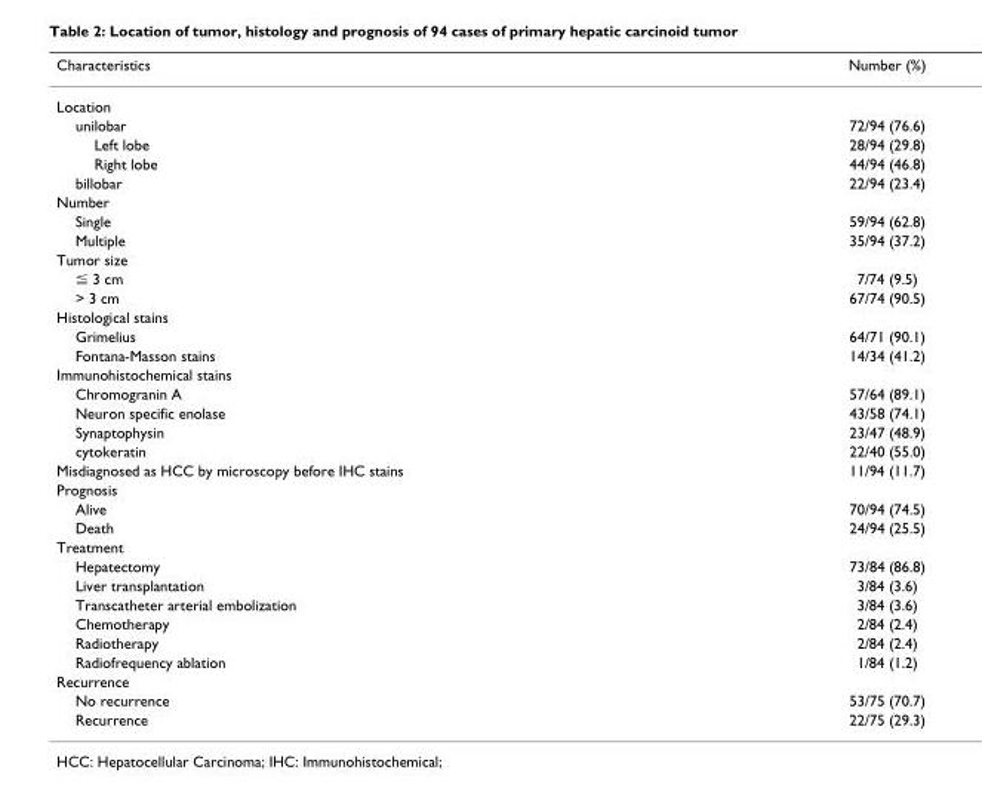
<table><thead><tr><td>Characteristics</td><td>Number (%)</td></tr></thead><tbody><tr><td colspan="2">Location</td></tr><tr><td>unilobar</td><td>72/94 (76.6)</td></tr><tr><td>Left lobe</td><td>28/94 (29.8)</td></tr><tr><td>Right lobe</td><td>44/94 (46.8)</td></tr><tr><td>billobar</td><td>22/94 (23.4)</td></tr><tr><td colspan="2">Number</td></tr><tr><td>Single</td><td>59/94 (62.8)</td></tr><tr><td>Multiple</td><td>35/94 (37.2)</td></tr><tr><td colspan="2">Tumor size</td></tr><tr><td>≦ 3 cm</td><td>7/74 (9.5)</td></tr><tr><td>&gt; 3 cm</td><td>67/74 (90.5)</td></tr><tr><td colspan="2">Histological stains</td></tr><tr><td>Grimelius</td><td>64/71 (90.1)</td></tr><tr><td>Fontana-Masson stains</td><td>14/34 (41.2)</td></tr><tr><td colspan="2">Immunohistochemical stains</td></tr><tr><td>Chromogranin A</td><td>57/64 (89.1)</td></tr><tr><td>Neuron specific enolase</td><td>43/58 (74.1)</td></tr><tr><td>Synaptophysin</td><td>23/47 (48.9)</td></tr><tr><td>cytokeratin</td><td>22/40 (55.0)</td></tr><tr><td>Misdiagnosed as HCC by microscopy before IHC stains</td><td>11/94 (11.7)</td></tr><tr><td colspan="2">Prognosis</td></tr><tr><td>Alive</td><td>70/94 (74.5)</td></tr><tr><td>Death</td><td>24/94 (25.5)</td></tr><tr><td colspan="2">Treatment</td></tr><tr><td>Hepatectomy</td><td>73/84 (86.8)</td></tr><tr><td>Liver transplantation</td><td>3/84 (3.6)</td></tr><tr><td>Transcatheter arterial embolization</td><td>3/84 (3.6)</td></tr><tr><td>Chemotherapy</td><td>2/84 (2.4)</td></tr><tr><td>Radiotherapy</td><td>2/84 (2.4)</td></tr><tr><td>Radiofrequency ablation</td><td>1/84 (1.2)</td></tr><tr><td colspan="2">Recurrence</td></tr><tr><td>No recurrence</td><td>53/75 (70.7)</td></tr><tr><td>Recurrence</td><td>22/75 (29.3)</td></tr></tbody></table>